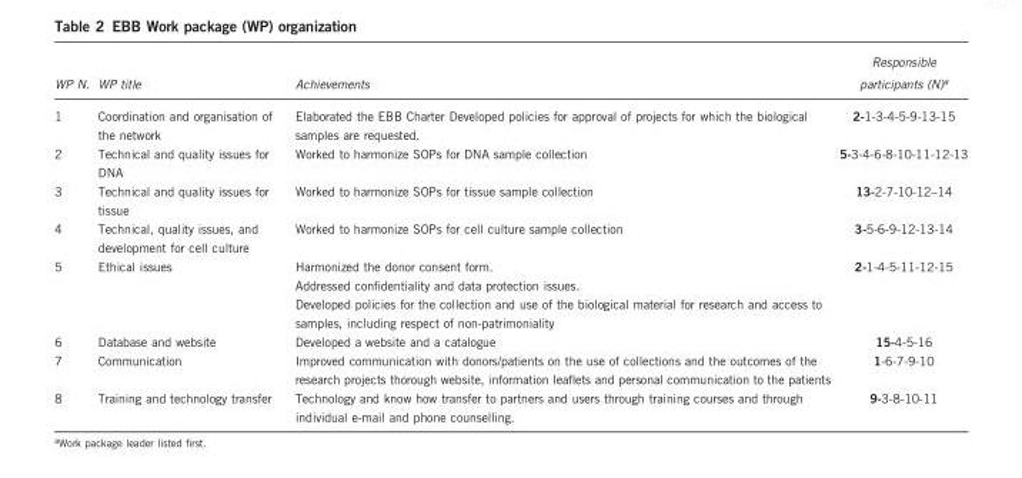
<table><thead><tr><td>WP N.</td><td>WP title</td><td>Achievements</td><td>Responsible participants (N)<sup>a</sup></td></tr></thead><tbody><tr><td>1</td><td>Coordination and organisation of the network</td><td>Elaborated the EBB Charter Developed policies for approval of projects for which the biological samples are requested.</td><td>2-1-3-4-5-9-13-15</td></tr><tr><td>2</td><td>Technical and quality issues for DNA</td><td>Worked to harmonize SOPs for DNA sample collection</td><td>5-3-4-6-8-10-11-12-13</td></tr><tr><td>3</td><td>Technical and quality issues for tissue</td><td>Worked to harmonize SOPs for tissue sample collection</td><td>13-2-7-10-12–14</td></tr><tr><td>4</td><td>Technical, quality issues, and development for cell culture</td><td>Worked to harmonize SOPs for cell culture sample collection</td><td>3-5-6-9-12-13-14</td></tr><tr><td>5</td><td>Ethical issues</td><td>Harmonized the donor consent form. Addressed confidentiality and data protection issues. Developed policies for the collection and use of the biological material for research and access to samples, including respect of non-patrimoniality</td><td>2-1-4-5-11-12-15</td></tr><tr><td>6</td><td>Database and website</td><td>Developed a website and a catalogue</td><td>15-4-5-16</td></tr><tr><td>7</td><td>Communication</td><td>Improved communication with donors/patients on the use of collections and the outcomes of the research projects thorough website, information leaflets and personal communication to the patients</td><td>1-6-7-9-10</td></tr><tr><td>8</td><td>Training and technology transfer</td><td>Technology and know how transfer to partners and users through training courses and through individual e-mail and phone counselling.</td><td>9-3-8-10-11</td></tr></tbody></table>